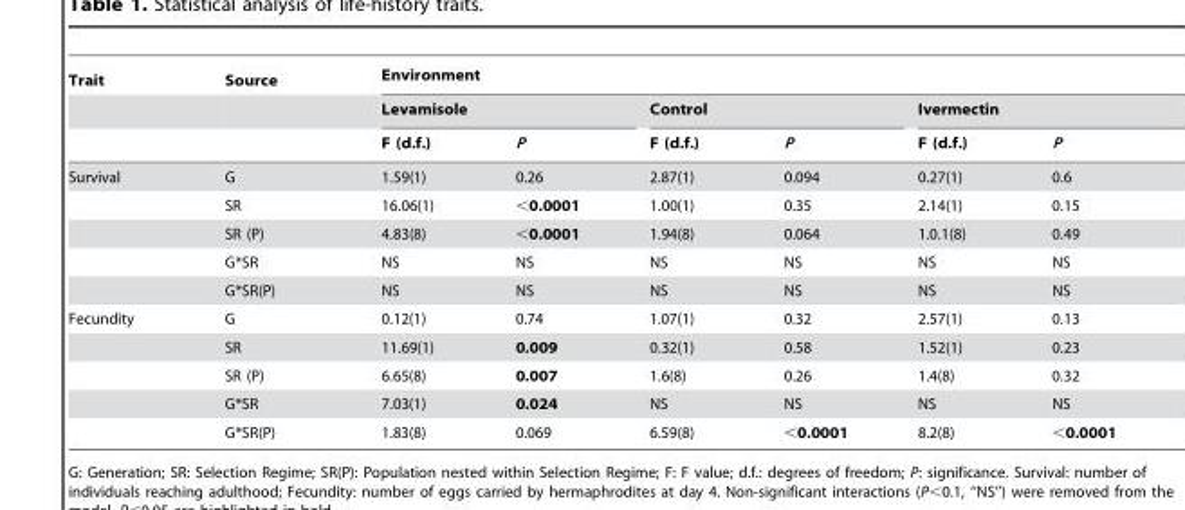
<table><thead><tr><td rowspan="3">Trait</td><td rowspan="3">Source</td><td colspan="6">Environment</td></tr><tr><td colspan="2">Levamisole</td><td colspan="2">Control</td><td colspan="2">Ivermectin</td></tr><tr><td>F (d.f.)</td><td>P</td><td>F (d.f.)</td><td>P</td><td>F (d.f.)</td><td>P</td></tr></thead><tbody><tr><td rowspan="5">Survival</td><td>G</td><td>1.59(1)</td><td>0.26</td><td>2.87(1)</td><td>0.094</td><td>0.27(1)</td><td>0.6</td></tr><tr><td>SR</td><td>16.06(1)</td><td>&lt;0.0001</td><td>1.00(1)</td><td>0.35</td><td>2.14(1)</td><td>0.15</td></tr><tr><td>SR (P)</td><td>4.83(8)</td><td>&lt;0.0001</td><td>1.94(8)</td><td>0.064</td><td>1.0.1(8)</td><td>0.49</td></tr><tr><td>G*SR</td><td>NS</td><td>NS</td><td>NS</td><td>NS</td><td>NS</td><td>NS</td></tr><tr><td>G*SR(P)</td><td>NS</td><td>NS</td><td>NS</td><td>NS</td><td>NS</td><td>NS</td></tr><tr><td rowspan="5">Fecundity</td><td>G</td><td>0.12(1)</td><td>0.74</td><td>1.07(1)</td><td>0.32</td><td>2.57(1)</td><td>0.13</td></tr><tr><td>SR</td><td>11.69(1)</td><td>0.009</td><td>0.32(1)</td><td>0.58</td><td>1.52(1)</td><td>0.23</td></tr><tr><td>SR (P)</td><td>6.65(8)</td><td>0.007</td><td>1.6(8)</td><td>0.26</td><td>1.4(8)</td><td>0.32</td></tr><tr><td>G*SR</td><td>7.03(1)</td><td>0.024</td><td>NS</td><td>NS</td><td>NS</td><td>NS</td></tr><tr><td>G*SR(P)</td><td>1.83(8)</td><td>0.069</td><td>6.59(8)</td><td>&lt;0.0001</td><td>8.2(8)</td><td>&lt;0.0001</td></tr></tbody></table>